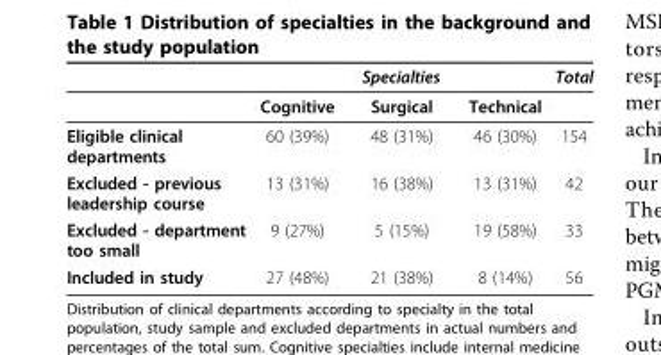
<table><thead><tr><td rowspan="2"></td><td colspan="3">Specialties</td><td rowspan="2">Total</td></tr><tr><td>Cognitive</td><td>Surgical</td><td>Technical</td></tr></thead><tbody><tr><td>Eligible clinical departments</td><td>60 (39%)</td><td>48 (31%)</td><td>46 (30%)</td><td>154</td></tr><tr><td>Excluded - previous leadership course</td><td>13 (31%)</td><td>16 (38%)</td><td>13 (31%)</td><td>42</td></tr><tr><td>Excluded - department too small</td><td>9 (27%)</td><td>5 (15%)</td><td>19 (58%)</td><td>33</td></tr><tr><td>Included in study</td><td>27 (48%)</td><td>21 (38%)</td><td>8 (14%)</td><td>56</td></tr></tbody></table>